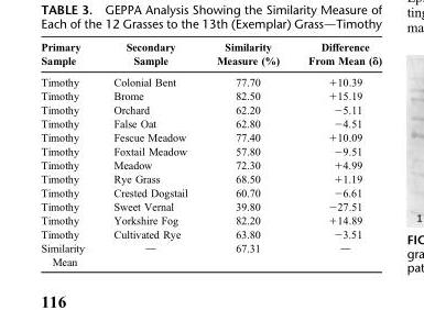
<table><thead><tr><td>Primary Sample</td><td>Secondary Sample</td><td>Similarity Measure (%)</td><td>Difference From Mean (δ)</td></tr></thead><tbody><tr><td>Timothy</td><td>Colonial Bent</td><td>77.70</td><td>+10.39</td></tr><tr><td>Timothy</td><td>Brome</td><td>82.50</td><td>+15.19</td></tr><tr><td>Timothy</td><td>Orchard</td><td>62.20</td><td>25.11</td></tr><tr><td>Timothy</td><td>False Oat</td><td>62.80</td><td>24.51</td></tr><tr><td>Timothy</td><td>Fescue Meadow</td><td>77.40</td><td>+10.09</td></tr><tr><td>Timothy</td><td>Foxtail Meadow</td><td>57.80</td><td>29.51</td></tr><tr><td>Timothy</td><td>Meadow</td><td>72.30</td><td>+4.99</td></tr><tr><td>Timothy</td><td>Rye Grass</td><td>68.50</td><td>+1.19</td></tr><tr><td>Timothy</td><td>Crested Dogstail</td><td>60.70</td><td>26.61</td></tr><tr><td>Timothy</td><td>Sweet Vernal</td><td>39.80</td><td>227.51</td></tr><tr><td>Timothy</td><td>Yorkshire Fog</td><td>82.20</td><td>+14.89</td></tr><tr><td>Timothy</td><td>Cultivated Rye</td><td>63.80</td><td>23.51</td></tr><tr><td>Similarity Mean</td><td>d</td><td>67.31</td><td>d</td></tr></tbody></table>